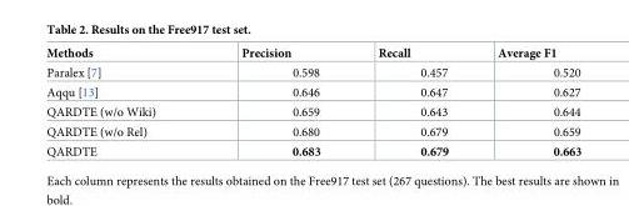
<table><thead><tr><td>Methods</td><td>Precision</td><td>Recall</td><td>Average F1</td></tr></thead><tbody><tr><td>Paralex [7]</td><td>0.598</td><td>0.457</td><td>0.520</td></tr><tr><td>Aqqu [13]</td><td>0.646</td><td>0.647</td><td>0.627</td></tr><tr><td>QARDTE (w/o Wiki)</td><td>0.659</td><td>0.643</td><td>0.644</td></tr><tr><td>QARDTE (w/o Rel)</td><td>0.680</td><td>0.679</td><td>0.659</td></tr><tr><td>QARDTE</td><td>0.683</td><td>0.679</td><td>0.663</td></tr></tbody></table>